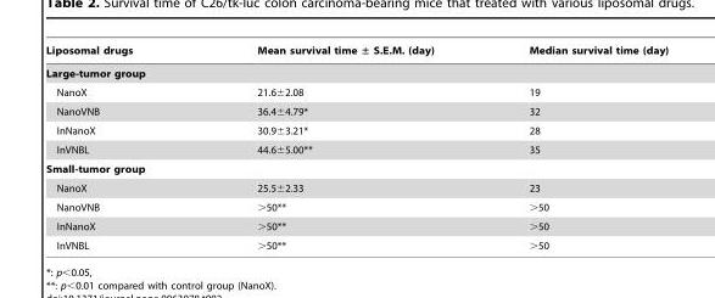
<table><thead><tr><td>Liposomal drugs</td><td>Mean survival time ± S.E.M. (day)</td><td>Median survival time (day)</td></tr></thead><tbody><tr><td colspan="3">Large-tumor group</td></tr><tr><td>NanoX</td><td>21.6±2.08</td><td>19</td></tr><tr><td>NanoVNB</td><td>36.4±4.79*</td><td>32</td></tr><tr><td>InNanoX</td><td>30.9±3.21*</td><td>28</td></tr><tr><td>InVNBL</td><td>44.6±5.00**</td><td>35</td></tr><tr><td colspan="3">Small-tumor group</td></tr><tr><td>NanoX</td><td>25.5±2.33</td><td>23</td></tr><tr><td>NanoVNB</td><td>&gt;50**</td><td>&gt;50</td></tr><tr><td>InNanoX</td><td>&gt;50**</td><td>&gt;50</td></tr><tr><td>InVNBL</td><td>&gt;50**</td><td>&gt;50</td></tr></tbody></table>